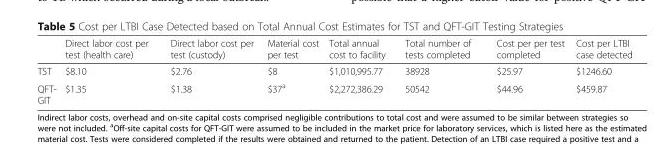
<table><thead><tr><td></td><td>Direct labor cost per test (health care)</td><td>Direct labor cost per test (custody)</td><td>Material cost per test</td><td>Total annual cost to facility</td><td>Total number of tests completed</td><td>Cost per per test completed</td><td>Cost per LTBI case detected</td></tr></thead><tbody><tr><td>TST</td><td>$8.10</td><td>$2.76</td><td>$8</td><td>$1,010,995.77</td><td>38928</td><td>$25.97</td><td>$1246.60</td></tr><tr><td>QFT- GIT</td><td>$1.35</td><td>$1.38</td><td>$37<sup>a</sup></td><td>$2,272,386.29</td><td>50542</td><td>$44.96</td><td>$459.87</td></tr></tbody></table>